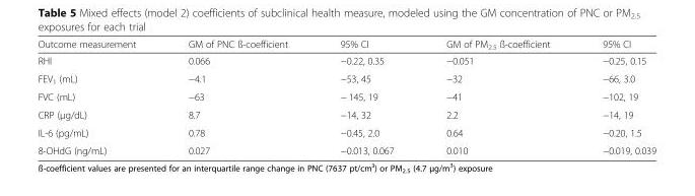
<table><thead><tr><td>Outcome measurement</td><td>GM of PNC ß-coefficient</td><td>95% CI</td><td>GM of PM<sub>2.5</sub> ß-coefficient</td><td>95% CI</td></tr></thead><tbody><tr><td>RHI</td><td>0.066</td><td>−0.22, 0.35</td><td>−0.051</td><td>−0.25, 0.15</td></tr><tr><td>FEV<sub>1</sub> (mL)</td><td>−4.1</td><td>−53, 45</td><td>−32</td><td>−66, 3.0</td></tr><tr><td>FVC (mL)</td><td>−63</td><td>− 145, 19</td><td>−41</td><td>−102, 19</td></tr><tr><td>CRP (μg/dL)</td><td>8.7</td><td>−14, 32</td><td>2.2</td><td>−14, 19</td></tr><tr><td>IL-6 (pg/mL)</td><td>0.78</td><td>−0.45, 2.0</td><td>0.64</td><td>−0.20, 1.5</td></tr><tr><td>8-OHdG (ng/mL)</td><td>0.027</td><td>−0.013, 0.067</td><td>0.010</td><td>−0.019, 0.039</td></tr></tbody></table>